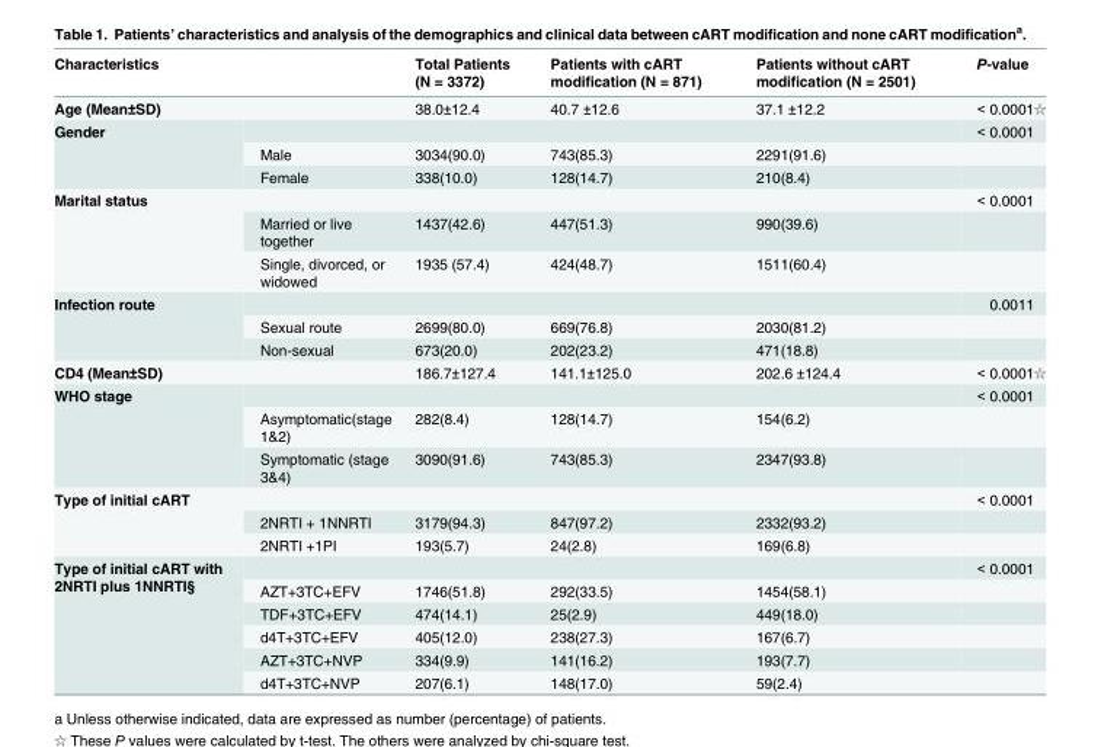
<table><thead><tr><td colspan="2">Characteristics</td><td rowspan="2">Total Patients (N = 3372) 38.0±12.4</td><td rowspan="2">Patients with cART modification (N = 871) 40.7 ±12.6</td><td rowspan="2">Patients without cART modification (N = 2501) 37.1 ±12.2</td><td rowspan="2">P-value &lt; 0.0001☆</td></tr><tr><td>Age (Mean±SD)</td><td></td></tr></thead><tbody><tr><td rowspan="3">Gender</td><td></td><td></td><td></td><td></td><td>&lt; 0.0001</td></tr><tr><td>Male</td><td>3034(90.0)</td><td>743(85.3)</td><td>2291(91.6)</td><td></td></tr><tr><td>Female</td><td>338(10.0)</td><td>128(14.7)</td><td>210(8.4)</td><td></td></tr><tr><td rowspan="3">Marital status</td><td></td><td></td><td></td><td></td><td>&lt; 0.0001</td></tr><tr><td>Married or live together</td><td>1437(42.6)</td><td>447(51.3)</td><td>990(39.6)</td><td></td></tr><tr><td>Single, divorced, or widowed</td><td>1935 (57.4)</td><td>424(48.7)</td><td>1511(60.4)</td><td></td></tr><tr><td rowspan="3">Infection route</td><td></td><td></td><td></td><td></td><td>0.0011</td></tr><tr><td>Sexual route</td><td>2699(80.0)</td><td>669(76.8)</td><td>2030(81.2)</td><td></td></tr><tr><td>Non-sexual</td><td>673(20.0)</td><td>202(23.2)</td><td>471(18.8)</td><td></td></tr><tr><td>CD4 (Mean±SD)</td><td></td><td>186.7±127.4</td><td>141.1±125.0</td><td>202.6 ±124.4</td><td>&lt; 0.0001☆</td></tr><tr><td rowspan="3">WHO stage</td><td></td><td></td><td></td><td></td><td>&lt; 0.0001</td></tr><tr><td>Asymptomatic(stage 1&amp;2)</td><td>282(8.4)</td><td>128(14.7)</td><td>154(6.2)</td><td></td></tr><tr><td>Symptomatic (stage 3&amp;4)</td><td>3090(91.6)</td><td>743(85.3)</td><td>2347(93.8)</td><td></td></tr><tr><td rowspan="3">Type of initial cART</td><td></td><td></td><td></td><td></td><td>&lt; 0.0001</td></tr><tr><td>2NRTI + 1NNRTI</td><td>3179(94.3)</td><td>847(97.2)</td><td>2332(93.2)</td><td></td></tr><tr><td>2NRTI +1PI</td><td>193(5.7)</td><td>24(2.8)</td><td>169(6.8)</td><td></td></tr><tr><td rowspan="6">Type of initial cART with 2NRTI plus 1NNRTI§</td><td></td><td></td><td></td><td></td><td>&lt; 0.0001</td></tr><tr><td>AZT+3TC+EFV</td><td>1746(51.8)</td><td>292(33.5)</td><td>1454(58.1)</td><td></td></tr><tr><td>TDF+3TC+EFV</td><td>474(14.1)</td><td>25(2.9)</td><td>449(18.0)</td><td></td></tr><tr><td>d4T+3TC+EFV</td><td>405(12.0)</td><td>238(27.3)</td><td>167(6.7)</td><td></td></tr><tr><td>AZT+3TC+NVP</td><td>334(9.9)</td><td>141(16.2)</td><td>193(7.7)</td><td></td></tr><tr><td>d4T+3TC+NVP</td><td>207(6.1)</td><td>148(17.0)</td><td>59(2.4)</td><td></td></tr></tbody></table>